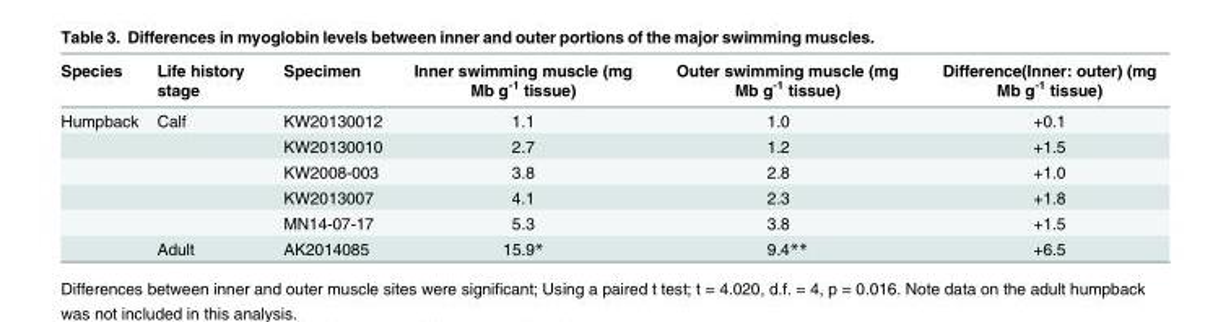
<table><thead><tr><td>Species</td><td>Life history stage</td><td>Specimen</td><td>Inner swimming muscle (mg Mb g<sup>-1</sup> tissue)</td><td>Outer swimming muscle (mg Mb g<sup>-1</sup> tissue)</td><td>Difference(Inner: outer) (mg Mb g<sup>-1</sup> tissue)</td></tr></thead><tbody><tr><td rowspan="6">Humpback</td><td>Calf</td><td>KW20130012</td><td>1.1</td><td>1.0</td><td>+0.1</td></tr><tr><td></td><td>KW20130010</td><td>2.7</td><td>1.2</td><td>+1.5</td></tr><tr><td></td><td>KW2008-003</td><td>3.8</td><td>2.8</td><td>+1.0</td></tr><tr><td></td><td>KW2013007</td><td>4.1</td><td>2.3</td><td>+1.8</td></tr><tr><td></td><td>MN14-07-17</td><td>5.3</td><td>3.8</td><td>+1.5</td></tr><tr><td>Adult</td><td>AK2014085</td><td>15.9*</td><td>9.4**</td><td>+6.5</td></tr></tbody></table>